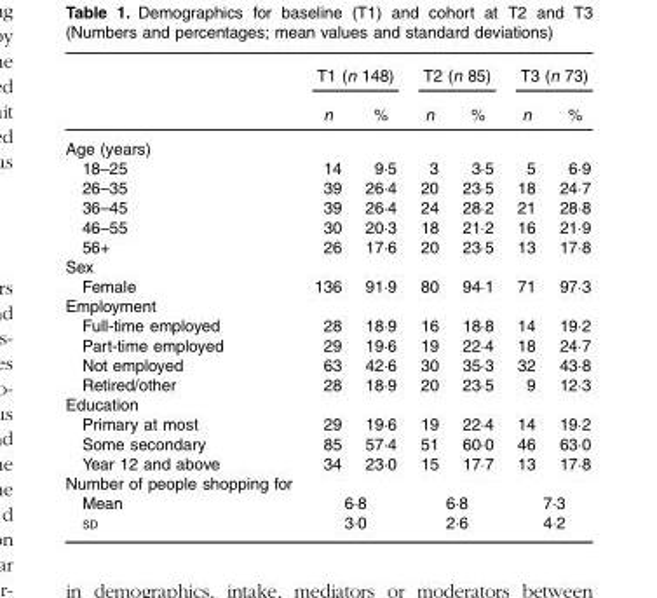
<table><thead><tr><td rowspan="2"></td><td colspan="2">T1 (n 148)</td><td colspan="2">T2 (n 85)</td><td colspan="2">T3 (n 73)</td></tr><tr><td>n</td><td>%</td><td>n</td><td>%</td><td>n</td><td>%</td></tr></thead><tbody><tr><td colspan="7">Age (years)</td></tr><tr><td>18–25</td><td>14</td><td>9·5</td><td>3</td><td>3·5</td><td>5</td><td>6·9</td></tr><tr><td>26–35</td><td>39</td><td>26·4</td><td>20</td><td>23·5</td><td>18</td><td>24·7</td></tr><tr><td>36–45</td><td>39</td><td>26·4</td><td>24</td><td>28·2</td><td>21</td><td>28·8</td></tr><tr><td>46–55</td><td>30</td><td>20·3</td><td>18</td><td>21·2</td><td>16</td><td>21·9</td></tr><tr><td>56+</td><td>26</td><td>17·6</td><td>20</td><td>23·5</td><td>13</td><td>17·8</td></tr><tr><td colspan="7">Sex</td></tr><tr><td>Female</td><td>136</td><td>91·9</td><td>80</td><td>94·1</td><td>71</td><td>97·3</td></tr><tr><td colspan="7">Employment</td></tr><tr><td>Full-time employed</td><td>28</td><td>18·9</td><td>16</td><td>18·8</td><td>14</td><td>19·2</td></tr><tr><td>Part-time employed</td><td>29</td><td>19·6</td><td>19</td><td>22·4</td><td>18</td><td>24·7</td></tr><tr><td>Not employed</td><td>63</td><td>42·6</td><td>30</td><td>35·3</td><td>32</td><td>43·8</td></tr><tr><td>Retired/other</td><td>28</td><td>18·9</td><td>20</td><td>23·5</td><td>9</td><td>12·3</td></tr><tr><td colspan="7">Education</td></tr><tr><td>Primary at most</td><td>29</td><td>19·6</td><td>19</td><td>22·4</td><td>14</td><td>19·2</td></tr><tr><td>Some secondary</td><td>85</td><td>57·4</td><td>51</td><td>60·0</td><td>46</td><td>63·0</td></tr><tr><td>Year 12 and above</td><td>34</td><td>23·0</td><td>15</td><td>17·7</td><td>13</td><td>17·8</td></tr><tr><td colspan="7">Number of people shopping for</td></tr><tr><td>Mean</td><td colspan="2">6·8</td><td colspan="2">6·8</td><td colspan="2">7·3</td></tr><tr><td>SD</td><td colspan="2">3·0</td><td colspan="2">2·6</td><td colspan="2">4·2</td></tr></tbody></table>